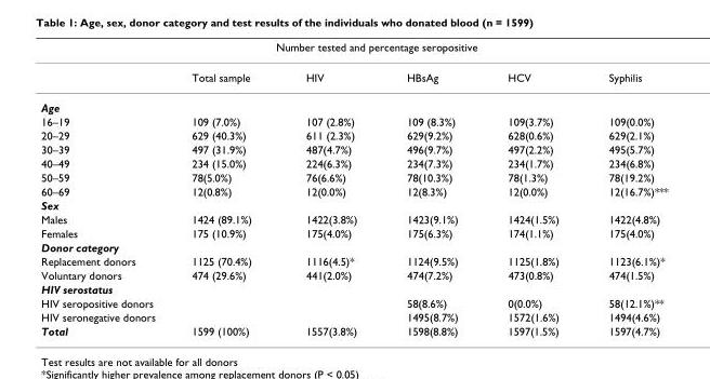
<table><thead><tr><td colspan="6">Number tested and percentage seropositive</td></tr><tr><td></td><td>Total sample</td><td>HIV</td><td>HBsAg</td><td>HCV</td><td>Syphilis</td></tr></thead><tbody><tr><td colspan="6">Age</td></tr><tr><td>16–19</td><td>109 (7.0%)</td><td>107 (2.8%)</td><td>109 (8.3%)</td><td>109(3.7%)</td><td>109(0.0%)</td></tr><tr><td>20–29</td><td>629 (40.3%)</td><td>611 (2.3%)</td><td>629(9.2%)</td><td>628(0.6%)</td><td>629(2.1%)</td></tr><tr><td>30–39</td><td>497 (31.9%)</td><td>487(4.7%)</td><td>496(9.7%)</td><td>497(2.2%)</td><td>495(5.7%)</td></tr><tr><td>40–49</td><td>234 (15.0%)</td><td>224(6.3%)</td><td>234(7.3%)</td><td>234(1.7%)</td><td>234(6.8%)</td></tr><tr><td>50–59</td><td>78(5.0%)</td><td>76(6.6%)</td><td>78(10.3%)</td><td>78(1.3%)</td><td>78(19.2%)</td></tr><tr><td>60–69</td><td>12(0.8%)</td><td>12(0.0%)</td><td>12(8.3%)</td><td>12(0.0%)</td><td>12(16.7%)***</td></tr><tr><td colspan="6">Sex</td></tr><tr><td>Males</td><td>1424 (89.1%)</td><td>1422(3.8%)</td><td>1423(9.1%)</td><td>1424(1.5%)</td><td>1422(4.8%)</td></tr><tr><td>Females</td><td>175 (10.9%)</td><td>175(4.0%)</td><td>175(6.3%)</td><td>174(1.1%)</td><td>175(4.0%)</td></tr><tr><td colspan="6">Donor category</td></tr><tr><td>Replacement donors</td><td>1125 (70.4%)</td><td>1116(4.5)*</td><td>1124(9.5%)</td><td>1125(1.8%)</td><td>1123(6.1%)*</td></tr><tr><td>Voluntary donors</td><td>474 (29.6%)</td><td>441(2.0%)</td><td>474(7.2%)</td><td>473(0.8%)</td><td>474(1.5%)</td></tr><tr><td colspan="6">HIV serostatus</td></tr><tr><td>HIV seropositive donors</td><td></td><td></td><td>58(8.6%)</td><td>0(0.0%)</td><td>58(12.1%)**</td></tr><tr><td>HIV seronegative donors</td><td></td><td></td><td>1495(8.7%)</td><td>1572(1.6%)</td><td>1494(4.6%)</td></tr><tr><td>Total</td><td>1599 (100%)</td><td>1557(3.8%)</td><td>1598(8.8%)</td><td>1597(1.5%)</td><td>1597(4.7%)</td></tr></tbody></table>